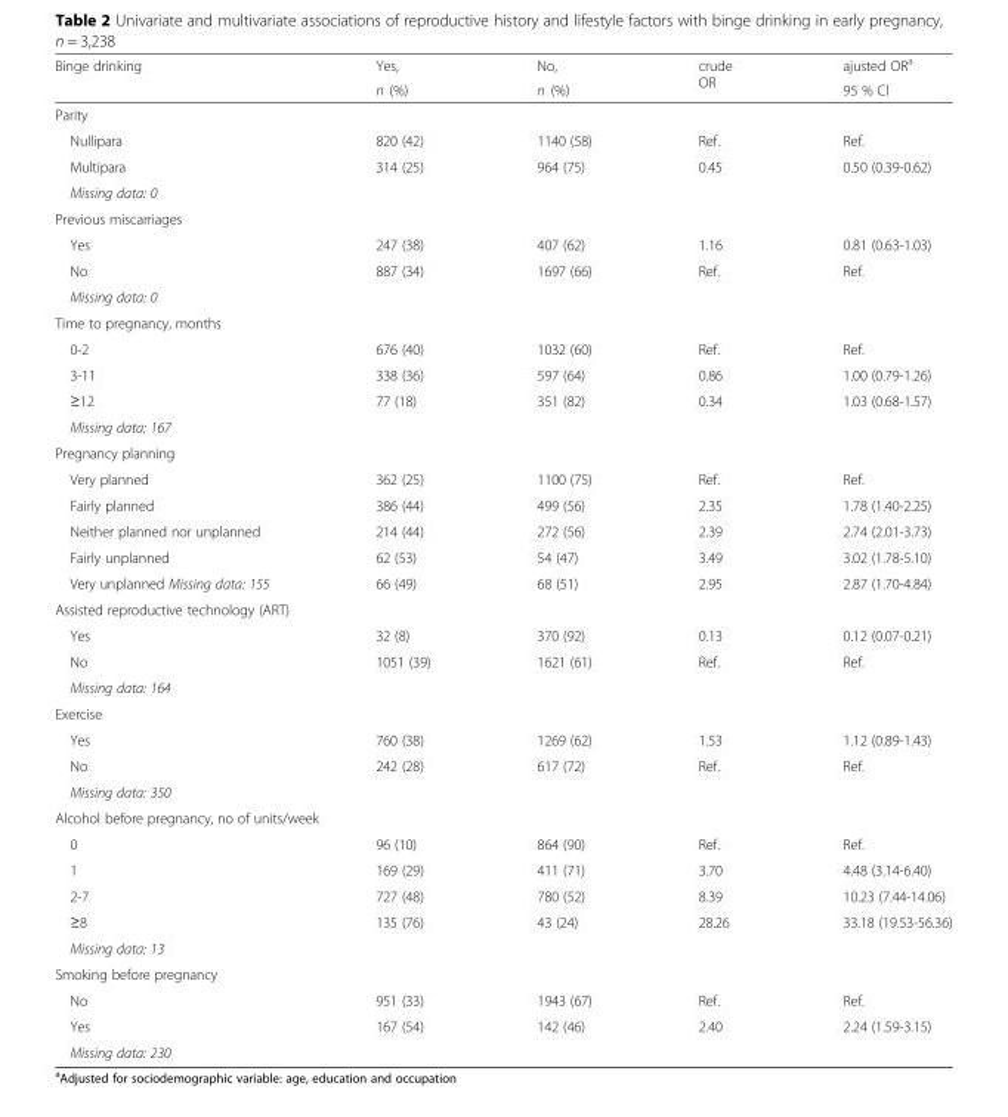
<table><thead><tr><td rowspan="2">Binge drinking</td><td rowspan="2">Yes, n (%)</td><td rowspan="2">No, n (%)</td><td rowspan="2">crude OR</td><td rowspan="2">ajusted OR<sup>a</sup> 95 % Cl</td></tr><tr></tr></thead><tbody><tr><td colspan="5">Parity</td></tr><tr><td>Nullipara</td><td>820 (42)</td><td>1140 (58)</td><td>Ref.</td><td>Ref.</td></tr><tr><td>Multipara</td><td>314 (25)</td><td>964 (75)</td><td>0.45</td><td>0.50 (0.39-0.62)</td></tr><tr><td colspan="5">Missing data: 0</td></tr><tr><td colspan="5">Previous miscarriages</td></tr><tr><td>Yes</td><td>247 (38)</td><td>407 (62)</td><td>1.16</td><td>0.81 (0.63-1.03)</td></tr><tr><td>No</td><td>887 (34)</td><td>1697 (66)</td><td>Ref.</td><td>Ref.</td></tr><tr><td colspan="5">Missing data: 0</td></tr><tr><td colspan="5">Time to pregnancy, months</td></tr><tr><td>0-2</td><td>676 (40)</td><td>1032 (60)</td><td>Ref.</td><td>Ref.</td></tr><tr><td>3-11</td><td>338 (36)</td><td>597 (64)</td><td>0.86</td><td>1.00 (0.79-1.26)</td></tr><tr><td>≥12</td><td>77 (18)</td><td>351 (82)</td><td>0.34</td><td>1.03 (0.68-1.57)</td></tr><tr><td colspan="5">Missing data: 167</td></tr><tr><td colspan="5">Pregnancy planning</td></tr><tr><td>Very planned</td><td>362 (25)</td><td>1100 (75)</td><td>Ref.</td><td>Ref.</td></tr><tr><td>Fairly planned</td><td>386 (44)</td><td>499 (56)</td><td>2.35</td><td>1.78 (1.40-2.25)</td></tr><tr><td>Neither planned nor unplanned</td><td>214 (44)</td><td>272 (56)</td><td>2.39</td><td>2.74 (2.01-3.73)</td></tr><tr><td>Fairly unplanned</td><td>62 (53)</td><td>54 (47)</td><td>3.49</td><td>3.02 (1.78-5.10)</td></tr><tr><td>Very unplanned Missing data: 155</td><td>66 (49)</td><td>68 (51)</td><td>2.95</td><td>2.87 (1.70-4.84)</td></tr><tr><td colspan="5">Assisted reproductive technology (ART)</td></tr><tr><td>Yes</td><td>32 (8)</td><td>370 (92)</td><td>0.13</td><td>0.12 (0.07-0.21)</td></tr><tr><td>No</td><td>1051 (39)</td><td>1621 (61)</td><td>Ref.</td><td>Ref.</td></tr><tr><td colspan="5">Missing data: 164</td></tr><tr><td colspan="5">Exercise</td></tr><tr><td>Yes</td><td>760 (38)</td><td>1269 (62)</td><td>1.53</td><td>1.12 (0.89-1.43)</td></tr><tr><td>No</td><td>242 (28)</td><td>617 (72)</td><td>Ref.</td><td>Ref.</td></tr><tr><td colspan="5">Missing data: 350</td></tr><tr><td colspan="5">Alcohol before pregnancy, no of units/week</td></tr><tr><td>0</td><td>96 (10)</td><td>864 (90)</td><td>Ref.</td><td>Ref.</td></tr><tr><td>1</td><td>169 (29)</td><td>411 (71)</td><td>3.70</td><td>4.48 (3.14-6.40)</td></tr><tr><td>2-7</td><td>727 (48)</td><td>780 (52)</td><td>8.39</td><td>10.23 (7.44-14.06)</td></tr><tr><td>≥8</td><td>135 (76)</td><td>43 (24)</td><td>28.26</td><td>33.18 (19.53-56.36)</td></tr><tr><td colspan="5">Missing data: 13</td></tr><tr><td colspan="5">Smoking before pregnancy</td></tr><tr><td>No</td><td>951 (33)</td><td>1943 (67)</td><td>Ref.</td><td>Ref.</td></tr><tr><td>Yes</td><td>167 (54)</td><td>142 (46)</td><td>2.40</td><td>2.24 (1.59-3.15)</td></tr><tr><td>Missing data: 230</td><td></td><td></td><td></td><td></td></tr></tbody></table>